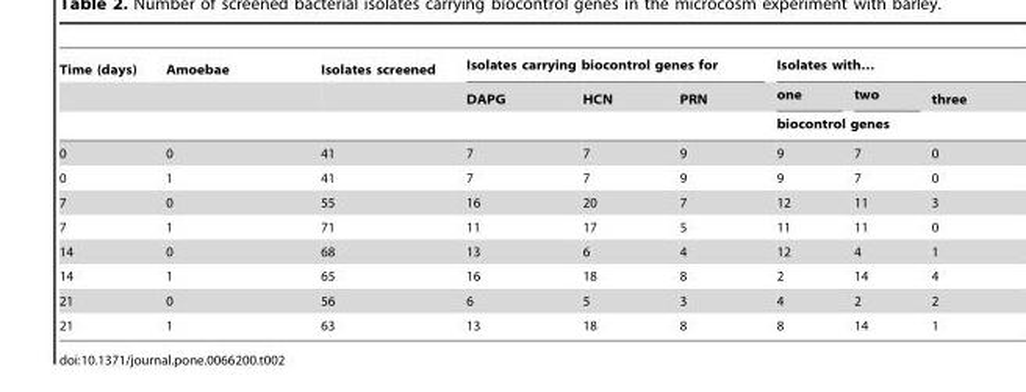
<table><thead><tr><td rowspan="3">Time (days)</td><td rowspan="3">Amoebae</td><td rowspan="3">Isolates screened</td><td colspan="3">Isolates carrying biocontrol genes for</td><td colspan="3">Isolates with…</td></tr><tr><td rowspan="2">DAPG</td><td rowspan="2">HCN</td><td rowspan="2">PRN</td><td>one</td><td>two</td><td>three</td></tr><tr><td colspan="3">biocontrol genes</td></tr></thead><tbody><tr><td>0</td><td>0</td><td>41</td><td>7</td><td>7</td><td>9</td><td>9</td><td>7</td><td>0</td></tr><tr><td>0</td><td>1</td><td>41</td><td>7</td><td>7</td><td>9</td><td>9</td><td>7</td><td>0</td></tr><tr><td>7</td><td>0</td><td>55</td><td>16</td><td>20</td><td>7</td><td>12</td><td>11</td><td>3</td></tr><tr><td>7</td><td>1</td><td>71</td><td>11</td><td>17</td><td>5</td><td>11</td><td>11</td><td>0</td></tr><tr><td>14</td><td>0</td><td>68</td><td>13</td><td>6</td><td>4</td><td>12</td><td>4</td><td>1</td></tr><tr><td>14</td><td>1</td><td>65</td><td>16</td><td>18</td><td>8</td><td>2</td><td>14</td><td>4</td></tr><tr><td>21</td><td>0</td><td>56</td><td>6</td><td>5</td><td>3</td><td>4</td><td>2</td><td>2</td></tr><tr><td>21</td><td>1</td><td>63</td><td>13</td><td>18</td><td>8</td><td>8</td><td>14</td><td>1</td></tr></tbody></table>